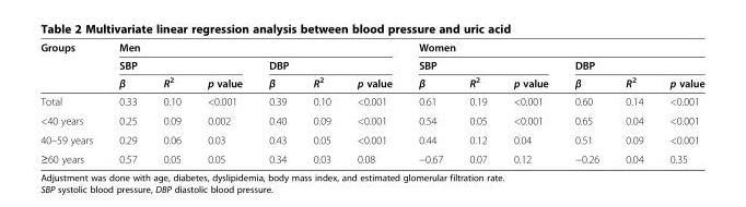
<table><thead><tr><td rowspan="3">Groups</td><td colspan="6">Men</td><td colspan="6">Women</td></tr><tr><td colspan="3">SBP</td><td colspan="3">DBP</td><td colspan="3">SBP</td><td colspan="3">DBP</td></tr><tr><td>β</td><td>R<sup>2</sup></td><td>p value</td><td>β</td><td>R<sup>2</sup></td><td>p value</td><td>β</td><td>R<sup>2</sup></td><td>p value</td><td>β</td><td>R<sup>2</sup></td><td>p value</td></tr></thead><tbody><tr><td>Total</td><td>0.33</td><td>0.10</td><td>&lt;0.001</td><td>0.39</td><td>0.10</td><td>&lt;0.001</td><td>0.61</td><td>0.19</td><td>&lt;0.001</td><td>0.60</td><td>0.14</td><td>&lt;0.001</td></tr><tr><td>&lt;40 years</td><td>0.25</td><td>0.09</td><td>0.002</td><td>0.40</td><td>0.09</td><td>&lt;0.001</td><td>0.54</td><td>0.05</td><td>&lt;0.001</td><td>0.65</td><td>0.04</td><td>&lt;0.001</td></tr><tr><td>40–59 years</td><td>0.29</td><td>0.06</td><td>0.03</td><td>0.43</td><td>0.05</td><td>&lt;0.001</td><td>0.44</td><td>0.12</td><td>0.04</td><td>0.51</td><td>0.09</td><td>&lt;0.001</td></tr><tr><td>≥60 years</td><td>0.57</td><td>0.05</td><td>0.05</td><td>0.34</td><td>0.03</td><td>0.08</td><td>−0.67</td><td>0.07</td><td>0.12</td><td>−0.26</td><td>0.04</td><td>0.35</td></tr></tbody></table>